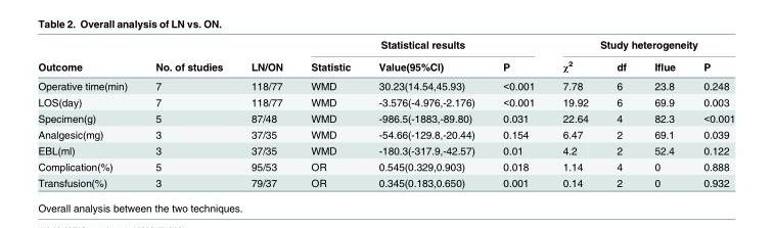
<table><thead><tr><td rowspan="2">Outcome</td><td rowspan="2">No. of studies</td><td rowspan="2">LN/ON</td><td colspan="3">Statistical results</td><td colspan="4">Study heterogeneity</td></tr><tr><td>Statistic</td><td>Value(95%CI)</td><td>P</td><td>χ<sup>2</sup></td><td>df</td><td>Iflue</td><td>P</td></tr></thead><tbody><tr><td>Operative time(min)</td><td>7</td><td>118/77</td><td>WMD</td><td>30.23(14.54,45.93)</td><td>&lt;0.001</td><td>7.78</td><td>6</td><td>23.8</td><td>0.248</td></tr><tr><td>LOS(day)</td><td>7</td><td>118/77</td><td>WMD</td><td>-3.576(-4.976,-2.176)</td><td>&lt;0.001</td><td>19.92</td><td>6</td><td>69.9</td><td>0.003</td></tr><tr><td>Specimen(g)</td><td>5</td><td>87/48</td><td>WMD</td><td>-986.5(-1883,-89.80)</td><td>0.031</td><td>22.64</td><td>4</td><td>82.3</td><td>&lt;0.001</td></tr><tr><td>Analgesic(mg)</td><td>3</td><td>37/35</td><td>WMD</td><td>-54.66(-129.8,-20.44)</td><td>0.154</td><td>6.47</td><td>2</td><td>69.1</td><td>0.039</td></tr><tr><td>EBL(ml)</td><td>3</td><td>37/35</td><td>WMD</td><td>-180.3(-317.9,-42.57)</td><td>0.01</td><td>4.2</td><td>2</td><td>52.4</td><td>0.122</td></tr><tr><td>Complication(%)</td><td>5</td><td>95/53</td><td>OR</td><td>0.545(0.329,0.903)</td><td>0.018</td><td>1.14</td><td>4</td><td>0</td><td>0.888</td></tr><tr><td>Transfusion(%)</td><td>3</td><td>79/37</td><td>OR</td><td>0.345(0.183,0.650)</td><td>0.001</td><td>0.14</td><td>2</td><td>0</td><td>0.932</td></tr></tbody></table>